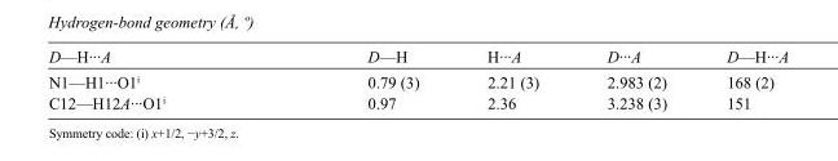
<table><tbody><tr><td>D—H···A</td><td>D—H</td><td>H···A</td><td>D···A</td><td>D—H···A</td></tr><tr><td>N1—H1···O1<sup>i</sup></td><td>0.79 (3)</td><td>2.21 (3)</td><td>2.983 (2)</td><td>168 (2)</td></tr><tr><td>C12—H12A···O1<sup>i</sup></td><td>0.97</td><td>2.36</td><td>3.238 (3)</td><td>151</td></tr></tbody></table>